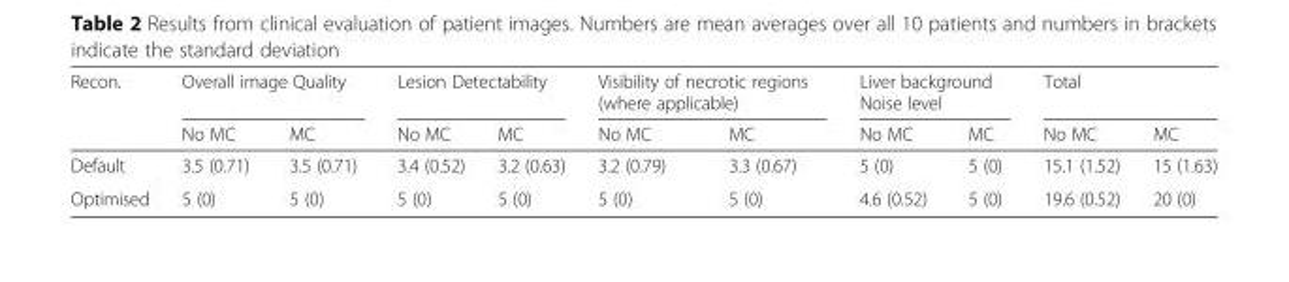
<table><thead><tr><td rowspan="2">Recon.</td><td colspan="2">Overall image Quality</td><td colspan="2">Lesion Detectability</td><td colspan="2">Visibility of necrotic regions (where applicable)</td><td colspan="2">Liver background Noise level</td><td colspan="2">Total</td></tr><tr><td>No MC</td><td>MC</td><td>No MC</td><td>MC</td><td>No MC</td><td>MC</td><td>No MC</td><td>MC</td><td>No MC</td><td>MC</td></tr></thead><tbody><tr><td>Default</td><td>3.5 (0.71)</td><td>3.5 (0.71)</td><td>3.4 (0.52)</td><td>3.2 (0.63)</td><td>3.2 (0.79)</td><td>3.3 (0.67)</td><td>5 (0)</td><td>5 (0)</td><td>15.1 (1.52)</td><td>15 (1.63)</td></tr><tr><td>Optimised</td><td>5 (0)</td><td>5 (0)</td><td>5 (0)</td><td>5 (0)</td><td>5 (0)</td><td>5 (0)</td><td>4.6 (0.52)</td><td>5 (0)</td><td>19.6 (0.52)</td><td>20 (0)</td></tr></tbody></table>